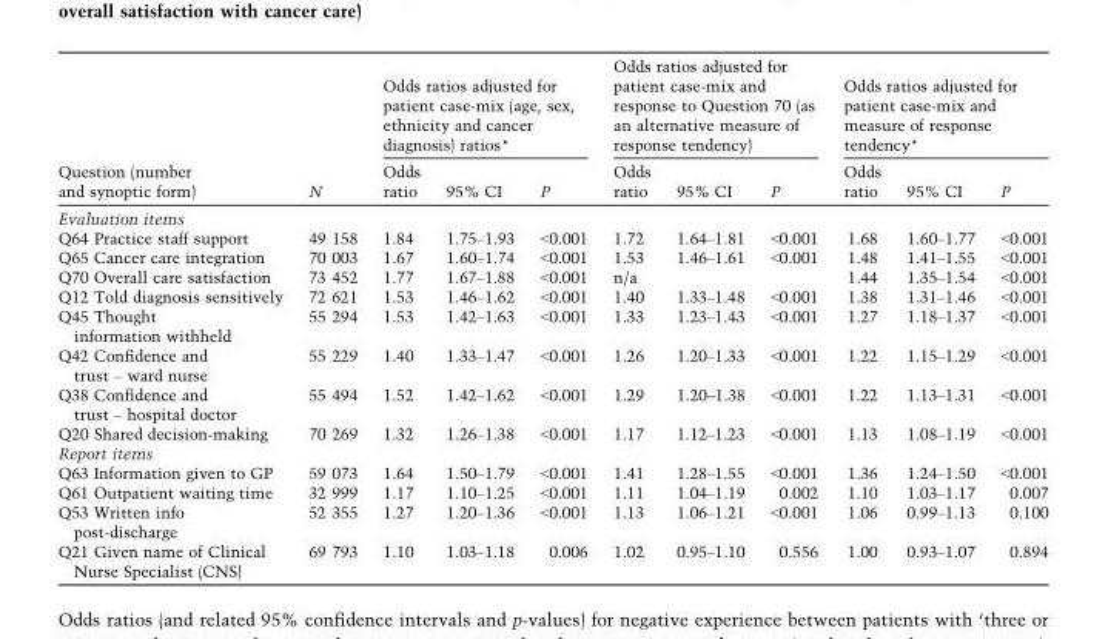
<table><thead><tr><td rowspan="2">Question (number and synoptic form)</td><td rowspan="2">N</td><td colspan="3">Odds ratios adjusted for patient case-mix (age, sex, ethnicity and cancer diagnosis) ratios*</td><td colspan="3">Odds ratios adjusted for patient case-mix and response to Question 70 (as an alternative measure of response tendency)</td><td colspan="3">Odds ratios adjusted for patient case-mix and measure of response tendency*</td></tr><tr><td>Odds ratio</td><td>95% CI</td><td>P</td><td>Odds ratio</td><td>95% CI</td><td>P</td><td>Odds ratio</td><td>95% CI</td><td>P</td></tr></thead><tbody><tr><td colspan="11">Evaluation items</td></tr><tr><td>Q64 Practice staff support</td><td>49 158</td><td>1.84</td><td>1.75–1.93</td><td>&lt;0.001</td><td>1.72</td><td>1.64–1.81</td><td>&lt;0.001</td><td>1.68</td><td>1.60–1.77</td><td>&lt;0.001</td></tr><tr><td>Q65 Cancer care integration</td><td>70 003</td><td>1.67</td><td>1.60–1.74</td><td>&lt;0.001</td><td>1.53</td><td>1.46–1.61</td><td>&lt;0.001</td><td>1.48</td><td>1.41–1.55</td><td>&lt;0.001</td></tr><tr><td>Q70 Overall care satisfaction</td><td>73 452</td><td>1.77</td><td>1.67–1.88</td><td>&lt;0.001</td><td>n/a</td><td></td><td></td><td>1.44</td><td>1.35–1.54</td><td>&lt;0.001</td></tr><tr><td>Q12 Told diagnosis sensitively</td><td>72 621</td><td>1.53</td><td>1.46–1.62</td><td>&lt;0.001</td><td>1.40</td><td>1.33–1.48</td><td>&lt;0.001</td><td>1.38</td><td>1.31–1.46</td><td>&lt;0.001</td></tr><tr><td>Q45 Thought information withheld</td><td>55 294</td><td>1.53</td><td>1.42–1.63</td><td>&lt;0.001</td><td>1.33</td><td>1.23–1.43</td><td>&lt;0.001</td><td>1.27</td><td>1.18–1.37</td><td>&lt;0.001</td></tr><tr><td>Q42 Confidence and trust – ward nurse</td><td>55 229</td><td>1.40</td><td>1.33–1.47</td><td>&lt;0.001</td><td>1.26</td><td>1.20–1.33</td><td>&lt;0.001</td><td>1.22</td><td>1.15–1.29</td><td>&lt;0.001</td></tr><tr><td>Q38 Confidence and trust – hospital doctor</td><td>55 494</td><td>1.52</td><td>1.42–1.62</td><td>&lt;0.001</td><td>1.29</td><td>1.20–1.38</td><td>&lt;0.001</td><td>1.22</td><td>1.13–1.31</td><td>&lt;0.001</td></tr><tr><td>Q20 Shared decision-making</td><td>70 269</td><td>1.32</td><td>1.26–1.38</td><td>&lt;0.001</td><td>1.17</td><td>1.12–1.23</td><td>&lt;0.001</td><td>1.13</td><td>1.08–1.19</td><td>&lt;0.001</td></tr><tr><td colspan="11">Report items</td></tr><tr><td>Q63 Information given to GP</td><td>59 073</td><td>1.64</td><td>1.50–1.79</td><td>&lt;0.001</td><td>1.41</td><td>1.28–1.55</td><td>&lt;0.001</td><td>1.36</td><td>1.24–1.50</td><td>&lt;0.001</td></tr><tr><td>Q61 Outpatient waiting time</td><td>32 999</td><td>1.17</td><td>1.10–1.25</td><td>&lt;0.001</td><td>1.11</td><td>1.04–1.19</td><td>0.002</td><td>1.10</td><td>1.03–1.17</td><td>0.007</td></tr><tr><td>Q53 Written info post-discharge</td><td>52 355</td><td>1.27</td><td>1.20–1.36</td><td>&lt;0.001</td><td>1.13</td><td>1.06–1.21</td><td>&lt;0.001</td><td>1.06</td><td>0.99–1.13</td><td>0.100</td></tr><tr><td>Q21 Given name of Clinical Nurse Specialist (CNS)</td><td>69 793</td><td>1.10</td><td>1.03–1.18</td><td>0.006</td><td>1.02</td><td>0.95–1.10</td><td>0.556</td><td>1.00</td><td>0.93–1.07</td><td>0.894</td></tr></tbody></table>